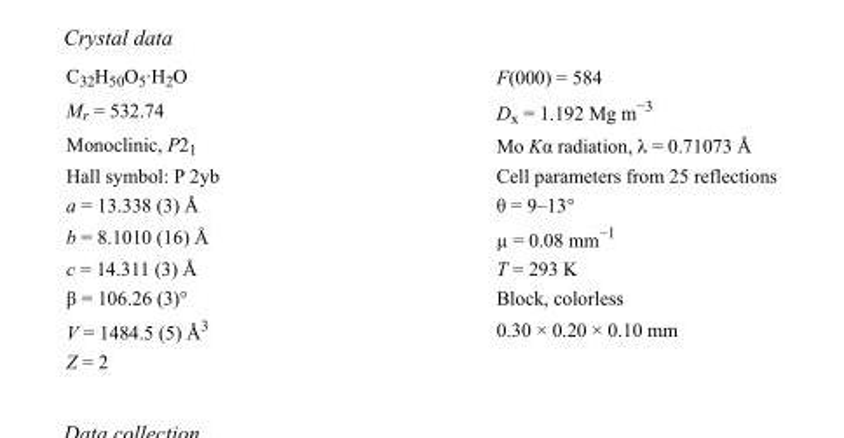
<table><tbody><tr><td>C<sub>32</sub>H<sub>50</sub>O<sub>5</sub>·H<sub>2</sub>O</td><td>F(000) = 584</td></tr><tr><td>M<sub>r</sub> = 532.74</td><td>D<sub>x</sub> = 1.192 Mg m<sup>−3</sup></td></tr><tr><td>Monoclinic, P2<sub>1</sub></td><td>Mo Kα radiation, λ = 0.71073 Å</td></tr><tr><td>Hall symbol: P 2yb</td><td>Cell parameters from 25 reflections</td></tr><tr><td>a = 13.338 (3) Å</td><td>θ = 9–13°</td></tr><tr><td>b = 8.1010 (16) Å</td><td>µ = 0.08 mm<sup>−1</sup></td></tr><tr><td>c = 14.311 (3) Å</td><td>T = 293 K</td></tr><tr><td>β = 106.26 (3)°</td><td>Block, colorless</td></tr><tr><td>V = 1484.5 (5) Å<sup>3</sup></td><td>0.30 × 0.20 × 0.10 mm</td></tr><tr><td>Z = 2</td><td></td></tr></tbody></table>